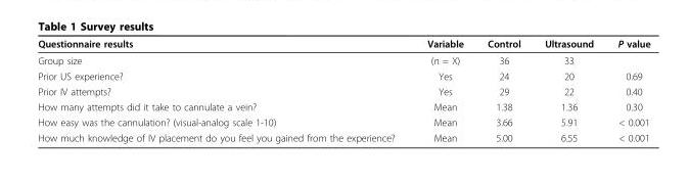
<table><thead><tr><td>Questionnaire results</td><td>Variable</td><td>Control</td><td>Ultrasound</td><td>P value</td></tr></thead><tbody><tr><td>Group size</td><td>(n = X)</td><td>36</td><td>33</td><td></td></tr><tr><td>Prior US experience?</td><td>Yes</td><td>24</td><td>20</td><td>0.69</td></tr><tr><td>Prior IV attempts?</td><td>Yes</td><td>29</td><td>22</td><td>0.40</td></tr><tr><td>How many attempts did it take to cannulate a vein?</td><td>Mean</td><td>1.38</td><td>1.36</td><td>0.30</td></tr><tr><td>How easy was the cannulation? (visual-analog scale 1-10)</td><td>Mean</td><td>3.66</td><td>5.91</td><td>&lt; 0.001</td></tr><tr><td>How much knowledge of IV placement do you feel you gained from the experience?</td><td>Mean</td><td>5.00</td><td>6.55</td><td>&lt; 0.001</td></tr></tbody></table>